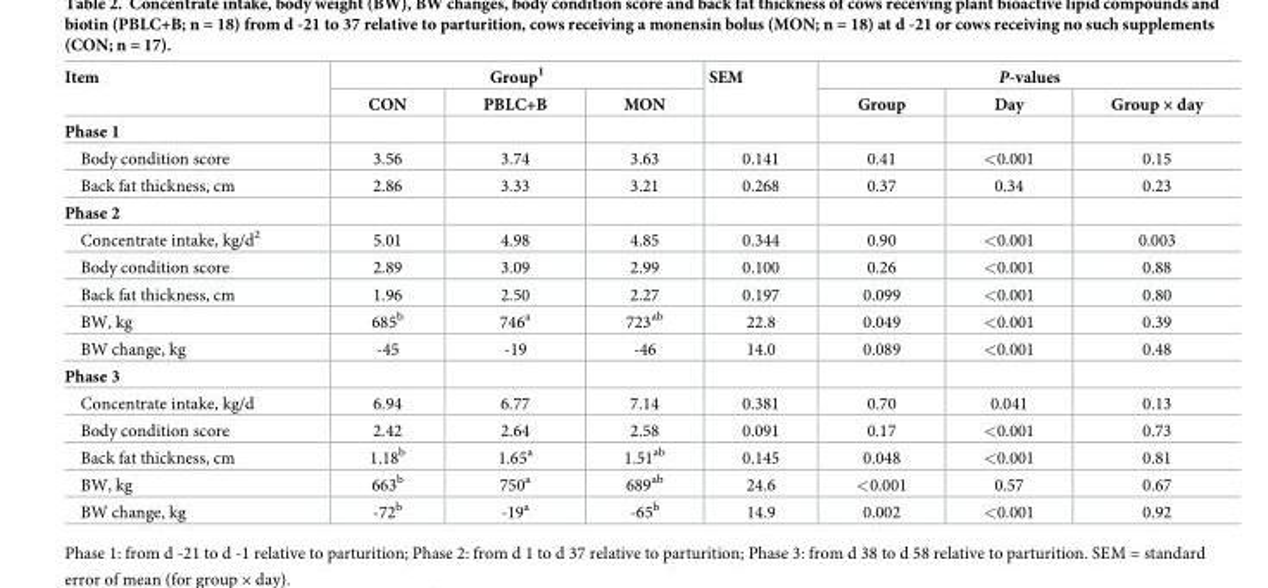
<table><thead><tr><td rowspan="2">Item</td><td colspan="3">Group<sup>1</sup></td><td rowspan="2">SEM</td><td colspan="3">P-values</td></tr><tr><td>CON</td><td>PBLC+B</td><td>MON</td><td>Group</td><td>Day</td><td>Group × day</td></tr></thead><tbody><tr><td colspan="8">Phase 1</td></tr><tr><td>Body condition score</td><td>3.56</td><td>3.74</td><td>3.63</td><td>0.141</td><td>0.41</td><td>&lt;0.001</td><td>0.15</td></tr><tr><td>Back fat thickness, cm</td><td>2.86</td><td>3.33</td><td>3.21</td><td>0.268</td><td>0.37</td><td>0.34</td><td>0.23</td></tr><tr><td colspan="8">Phase 2</td></tr><tr><td>Concentrate intake, kg/d<sup>2</sup></td><td>5.01</td><td>4.98</td><td>4.85</td><td>0.344</td><td>0.90</td><td>&lt;0.001</td><td>0.003</td></tr><tr><td>Body condition score</td><td>2.89</td><td>3.09</td><td>2.99</td><td>0.100</td><td>0.26</td><td>&lt;0.001</td><td>0.88</td></tr><tr><td>Back fat thickness, cm</td><td>1.96</td><td>2.50</td><td>2.27</td><td>0.197</td><td>0.099</td><td>&lt;0.001</td><td>0.80</td></tr><tr><td>BW, kg</td><td>685<sup>b</sup></td><td>746<sup>a</sup></td><td>723<sup>ab</sup></td><td>22.8</td><td>0.049</td><td>&lt;0.001</td><td>0.39</td></tr><tr><td>BW change, kg</td><td>-45</td><td>-19</td><td>-46</td><td>14.0</td><td>0.089</td><td>&lt;0.001</td><td>0.48</td></tr><tr><td colspan="8">Phase 3</td></tr><tr><td>Concentrate intake, kg/d</td><td>6.94</td><td>6.77</td><td>7.14</td><td>0.381</td><td>0.70</td><td>0.041</td><td>0.13</td></tr><tr><td>Body condition score</td><td>2.42</td><td>2.64</td><td>2.58</td><td>0.091</td><td>0.17</td><td>&lt;0.001</td><td>0.73</td></tr><tr><td>Back fat thickness, cm</td><td>1.18<sup>b</sup></td><td>1.65<sup>a</sup></td><td>1.51<sup>ab</sup></td><td>0.145</td><td>0.048</td><td>&lt;0.001</td><td>0.81</td></tr><tr><td>BW, kg</td><td>663<sup>b</sup></td><td>750<sup>a</sup></td><td>689<sup>ab</sup></td><td>24.6</td><td>&lt;0.001</td><td>0.57</td><td>0.67</td></tr><tr><td>BW change, kg</td><td>-72<sup>b</sup></td><td>-19<sup>a</sup></td><td>-65<sup>b</sup></td><td>14.9</td><td>0.002</td><td>&lt;0.001</td><td>0.92</td></tr></tbody></table>